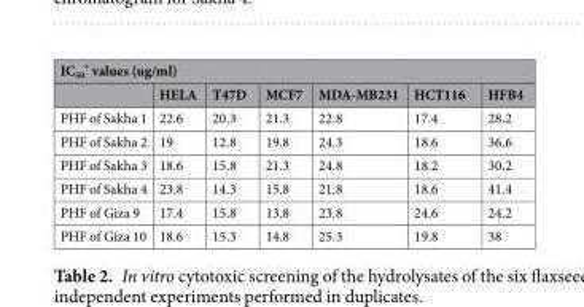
<table><thead><tr><td colspan="7">IC<sub>50</sub> * values (ug/ml)</td></tr><tr><td></td><td>HELA</td><td>T47D</td><td>MCF7</td><td>MDA-MB231</td><td>HCT116</td><td>HFB4</td></tr></thead><tbody><tr><td>PHF of Sakha 1</td><td>22.6</td><td>20.3</td><td>21.3</td><td>22.8</td><td>17.4</td><td>28.2</td></tr><tr><td>PHF of Sakha 2</td><td>19</td><td>12.8</td><td>19.8</td><td>24.3</td><td>18.6</td><td>36.6</td></tr><tr><td>PHF of Sakha 3</td><td>18.6</td><td>15.8</td><td>21.3</td><td>24.8</td><td>18.2</td><td>30.2</td></tr><tr><td>PHF of Sakha 4</td><td>23.8</td><td>14.3</td><td>15.8</td><td>21.8</td><td>18.6</td><td>41.4</td></tr><tr><td>PHF of Giza 9</td><td>17.4</td><td>15.8</td><td>13.8</td><td>23.8</td><td>24.6</td><td>24.2</td></tr><tr><td>PHF of Giza 10</td><td>18.6</td><td>15.3</td><td>14.8</td><td>25.3</td><td>19.8</td><td>38</td></tr></tbody></table>